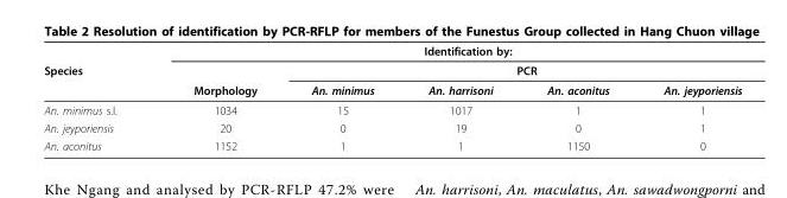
<table><thead><tr><td rowspan="3">Species</td><td colspan="5">Identification by:</td></tr><tr><td rowspan="2">Morphology</td><td colspan="4">PCR</td></tr><tr><td>An. minimus</td><td>An. harrisoni</td><td>An. aconitus</td><td>An. jeyporiensis</td></tr></thead><tbody><tr><td>An. minimus s.l.</td><td>1034</td><td>15</td><td>1017</td><td>1</td><td>1</td></tr><tr><td>An. jeyporiensis</td><td>20</td><td>0</td><td>19</td><td>0</td><td>1</td></tr><tr><td>An. aconitus</td><td>1152</td><td>1</td><td>1</td><td>1150</td><td>0</td></tr></tbody></table>